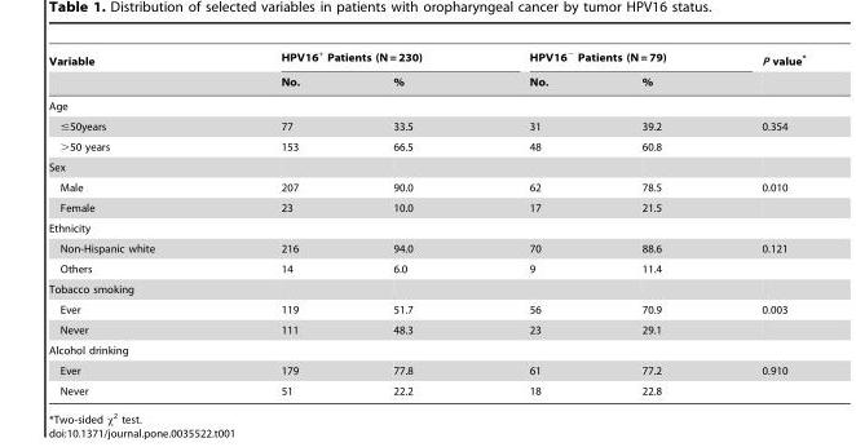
<table><thead><tr><td rowspan="2">Variable</td><td colspan="2">HPV16<sup>+</sup> Patients (N = 230)</td><td colspan="2">HPV16<sup>−</sup> Patients (N = 79)</td><td rowspan="2">P value*</td></tr><tr><td>No.</td><td>%</td><td>No.</td><td>%</td></tr></thead><tbody><tr><td colspan="6">Age</td></tr><tr><td>≤50years</td><td>77</td><td>33.5</td><td>31</td><td>39.2</td><td>0.354</td></tr><tr><td>&gt;50 years</td><td>153</td><td>66.5</td><td>48</td><td>60.8</td><td></td></tr><tr><td colspan="6">Sex</td></tr><tr><td>Male</td><td>207</td><td>90.0</td><td>62</td><td>78.5</td><td>0.010</td></tr><tr><td>Female</td><td>23</td><td>10.0</td><td>17</td><td>21.5</td><td></td></tr><tr><td colspan="6">Ethnicity</td></tr><tr><td>Non-Hispanic white</td><td>216</td><td>94.0</td><td>70</td><td>88.6</td><td>0.121</td></tr><tr><td>Others</td><td>14</td><td>6.0</td><td>9</td><td>11.4</td><td></td></tr><tr><td colspan="6">Tobacco smoking</td></tr><tr><td>Ever</td><td>119</td><td>51.7</td><td>56</td><td>70.9</td><td>0.003</td></tr><tr><td>Never</td><td>111</td><td>48.3</td><td>23</td><td>29.1</td><td></td></tr><tr><td colspan="6">Alcohol drinking</td></tr><tr><td>Ever</td><td>179</td><td>77.8</td><td>61</td><td>77.2</td><td>0.910</td></tr><tr><td>Never</td><td>51</td><td>22.2</td><td>18</td><td>22.8</td><td></td></tr></tbody></table>